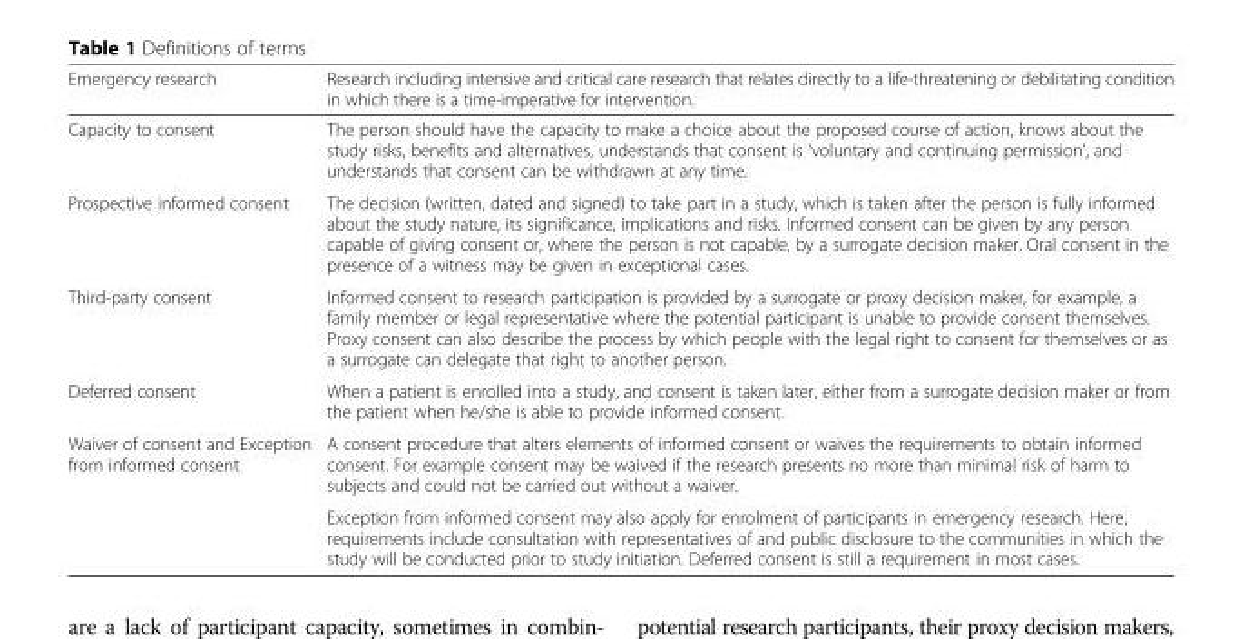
<table><thead><tr><td>Emergency research</td><td>Research including intensive and critical care research that relates directly to a life-threatening or debilitating condition in which there is a time-imperative for intervention.</td></tr></thead><tbody><tr><td>Capacity to consent</td><td>The person should have the capacity to make a choice about the proposed course of action, knows about the study risks, benefits and alternatives, understands that consent is ‘voluntary and continuing permission’, and understands that consent can be withdrawn at any time.</td></tr><tr><td>Prospective informed consent</td><td>The decision (written, dated and signed) to take part in a study, which is taken after the person is fully informed about the study nature, its significance, implications and risks. Informed consent can be given by any person capable of giving consent or, where the person is not capable, by a surrogate decision maker. Oral consent in the presence of a witness may be given in exceptional cases.</td></tr><tr><td>Third-party consent</td><td>Informed consent to research participation is provided by a surrogate or proxy decision maker, for example, a family member or legal representative where the potential participant is unable to provide consent themselves. Proxy consent can also describe the process by which people with the legal right to consent for themselves or as a surrogate can delegate that right to another person.</td></tr><tr><td>Deferred consent</td><td>When a patient is enrolled into a study, and consent is taken later, either from a surrogate decision maker or from the patient when he/she is able to provide informed consent.</td></tr><tr><td rowspan="2">Waiver of consent and Exception from informed consent</td><td>A consent procedure that alters elements of informed consent or waives the requirements to obtain informed consent. For example consent may be waived if the research presents no more than minimal risk of harm to subjects and could not be carried out without a waiver.</td></tr><tr><td>Exception from informed consent may also apply for enrolment of participants in emergency research. Here, requirements include consultation with representatives of and public disclosure to the communities in which the study will be conducted prior to study initiation. Deferred consent is still a requirement in most cases.</td></tr></tbody></table>